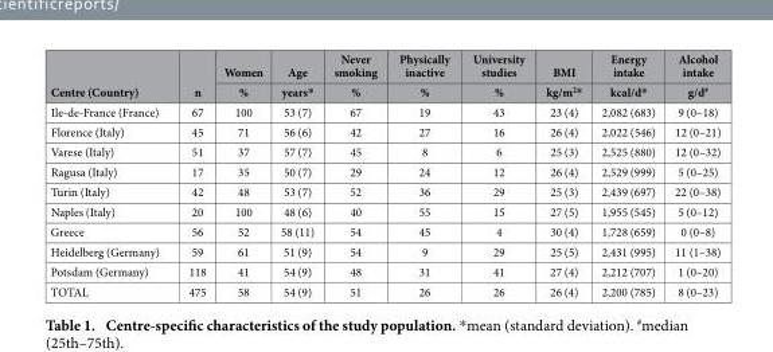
<table><thead><tr><td rowspan="2">Centre (Country)</td><td rowspan="2">n</td><td rowspan="2">Women %</td><td rowspan="2">Age years*</td><td rowspan="2">Never smoking %</td><td rowspan="2">Physically inactive %</td><td rowspan="2">University studies %</td><td rowspan="2">BMI kg/m<sup>2</sup>*</td><td rowspan="2">Energy intake kcal/d*</td><td rowspan="2">Alcohol intake g/d#</td></tr><tr></tr></thead><tbody><tr><td>Ile-de-France (France)</td><td>67</td><td>100</td><td>53 (7)</td><td>67</td><td>19</td><td>43</td><td>23 (4)</td><td>2,082 (683)</td><td>9 (0–18)</td></tr><tr><td>Florence (Italy)</td><td>45</td><td>71</td><td>56 (6)</td><td>42</td><td>27</td><td>16</td><td>26 (4)</td><td>2,022 (546)</td><td>12 (0–21)</td></tr><tr><td>Varese (Italy)</td><td>51</td><td>37</td><td>57 (7)</td><td>45</td><td>8</td><td>6</td><td>25 (3)</td><td>2,525 (880)</td><td>12 (0–32)</td></tr><tr><td>Ragusa (Italy)</td><td>17</td><td>35</td><td>50 (7)</td><td>29</td><td>24</td><td>12</td><td>26 (4)</td><td>2,529 (999)</td><td>5 (0–25)</td></tr><tr><td>Turin (Italy)</td><td>42</td><td>48</td><td>53 (7)</td><td>52</td><td>36</td><td>29</td><td>25 (3)</td><td>2,439 (697)</td><td>22 (0–38)</td></tr><tr><td>Naples (Italy)</td><td>20</td><td>100</td><td>48 (6)</td><td>40</td><td>55</td><td>15</td><td>27 (5)</td><td>1,955 (545)</td><td>5 (0–12)</td></tr><tr><td>Greece</td><td>56</td><td>52</td><td>58 (11)</td><td>54</td><td>45</td><td>4</td><td>30 (4)</td><td>1,728 (659)</td><td>0 (0–8)</td></tr><tr><td>Heidelberg (Germany)</td><td>59</td><td>61</td><td>51 (9)</td><td>54</td><td>9</td><td>29</td><td>25 (5)</td><td>2,431 (995)</td><td>11 (1–38)</td></tr><tr><td>Potsdam (Germany)</td><td>118</td><td>41</td><td>54 (9)</td><td>48</td><td>31</td><td>41</td><td>27 (4)</td><td>2,212 (707)</td><td>1 (0–20)</td></tr><tr><td>TOTAL</td><td>475</td><td>58</td><td>54 (9)</td><td>51</td><td>26</td><td>26</td><td>26 (4)</td><td>2,200 (785)</td><td>8 (0–23)</td></tr></tbody></table>